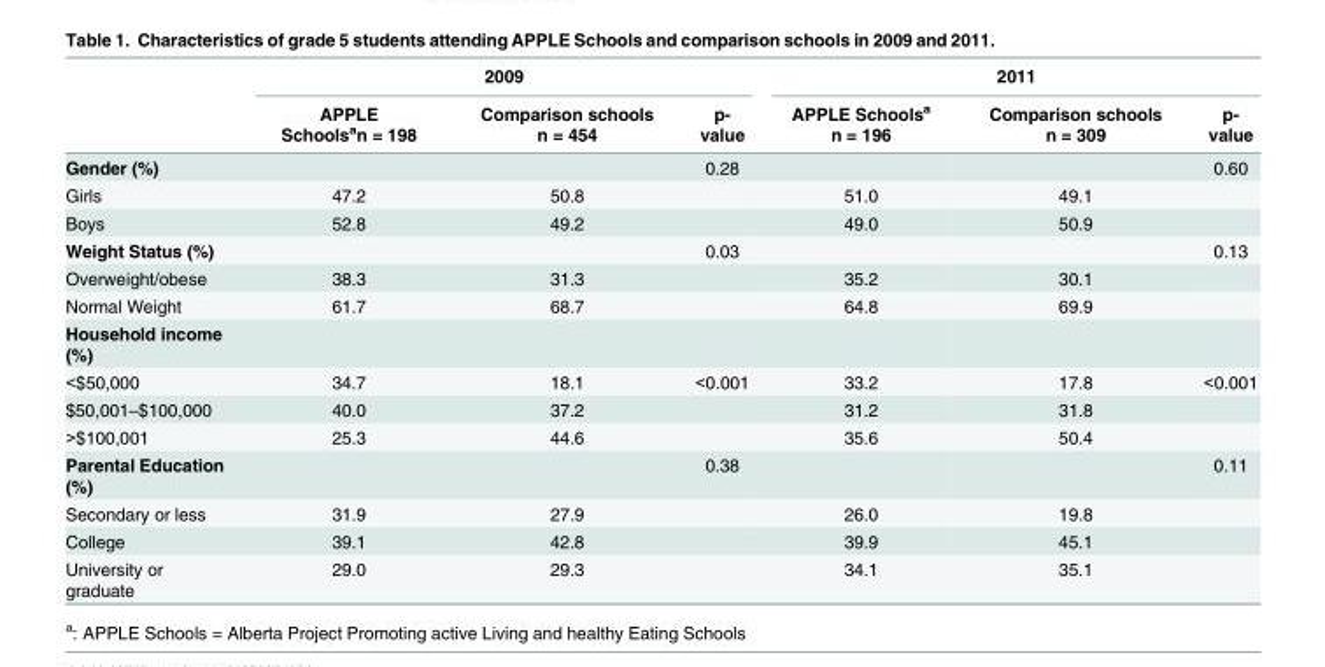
<table><thead><tr><td rowspan="2"></td><td colspan="3">2009</td><td colspan="3">2011</td></tr><tr><td>APPLE Schools<sup>a</sup>n = 198</td><td>Comparison schools n = 454</td><td>p- value</td><td>APPLE Schools<sup>a</sup> n = 196</td><td>Comparison schools n = 309</td><td>p- value</td></tr></thead><tbody><tr><td>Gender (%)</td><td></td><td></td><td>0.28</td><td></td><td></td><td>0.60</td></tr><tr><td>Girls</td><td>47.2</td><td>50.8</td><td></td><td>51.0</td><td>49.1</td><td></td></tr><tr><td>Boys</td><td>52.8</td><td>49.2</td><td></td><td>49.0</td><td>50.9</td><td></td></tr><tr><td>Weight Status (%)</td><td></td><td></td><td>0.03</td><td></td><td></td><td>0.13</td></tr><tr><td>Overweight/obese</td><td>38.3</td><td>31.3</td><td></td><td>35.2</td><td>30.1</td><td></td></tr><tr><td>Normal Weight</td><td>61.7</td><td>68.7</td><td></td><td>64.8</td><td>69.9</td><td></td></tr><tr><td colspan="7">Household income (%)</td></tr><tr><td>&lt;$50,000</td><td>34.7</td><td>18.1</td><td>&lt;0.001</td><td>33.2</td><td>17.8</td><td>&lt;0.001</td></tr><tr><td>$50,001–$100,000</td><td>40.0</td><td>37.2</td><td></td><td>31.2</td><td>31.8</td><td></td></tr><tr><td>&gt;$100,001</td><td>25.3</td><td>44.6</td><td></td><td>35.6</td><td>50.4</td><td></td></tr><tr><td>Parental Education (%)</td><td></td><td></td><td>0.38</td><td></td><td></td><td>0.11</td></tr><tr><td>Secondary or less</td><td>31.9</td><td>27.9</td><td></td><td>26.0</td><td>19.8</td><td></td></tr><tr><td>College</td><td>39.1</td><td>42.8</td><td></td><td>39.9</td><td>45.1</td><td></td></tr><tr><td>University or graduate</td><td>29.0</td><td>29.3</td><td></td><td>34.1</td><td>35.1</td><td></td></tr></tbody></table>